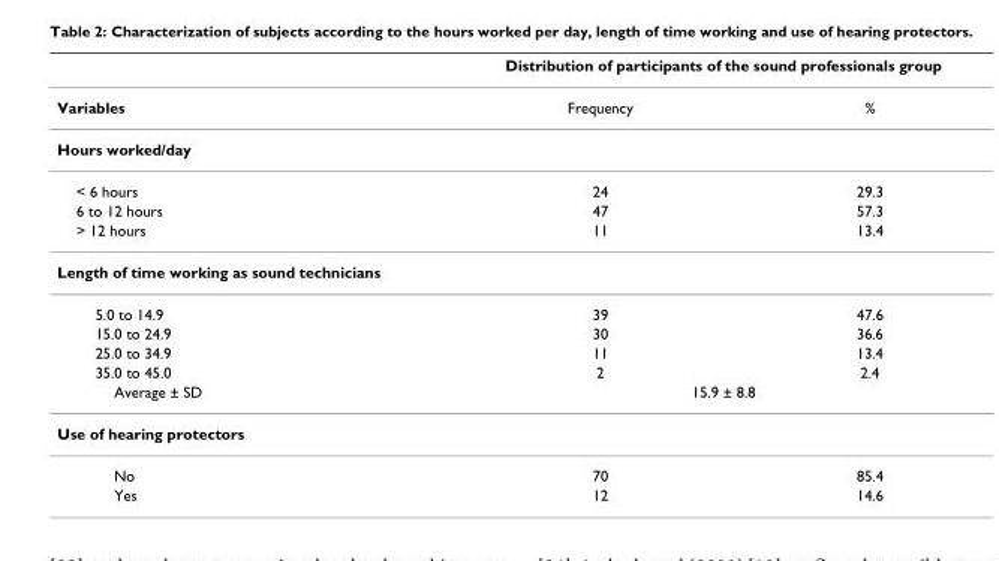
<table><thead><tr><td rowspan="2">Variables</td><td colspan="2">Distribution of participants of the sound professionals group</td></tr><tr><td>Frequency</td><td>%</td></tr></thead><tbody><tr><td colspan="3">Hours worked/day</td></tr><tr><td>&lt; 6 hours</td><td>24</td><td>29.3</td></tr><tr><td>6 to 12 hours</td><td>47</td><td>57.3</td></tr><tr><td>&gt; 12 hours</td><td>11</td><td>13.4</td></tr><tr><td colspan="3">Length of time working as sound technicians</td></tr><tr><td>5.0 to 14.9</td><td>39</td><td>47.6</td></tr><tr><td>15.0 to 24.9</td><td>30</td><td>36.6</td></tr><tr><td>25.0 to 34.9</td><td>11</td><td>13.4</td></tr><tr><td>35.0 to 45.0</td><td>2</td><td>2.4</td></tr><tr><td>Average ± SD</td><td colspan="2">15.9 ± 8.8</td></tr><tr><td colspan="3">Use of hearing protectors</td></tr><tr><td>No</td><td>70</td><td>85.4</td></tr><tr><td>Yes</td><td>12</td><td>14.6</td></tr></tbody></table>